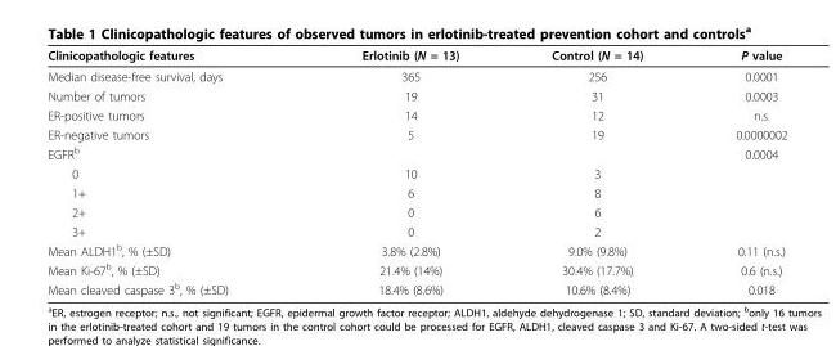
<table><thead><tr><td>Clinicopathologic features</td><td>Erlotinib (N = 13)</td><td>Control (N = 14)</td><td>P value</td></tr></thead><tbody><tr><td>Median disease-free survival, days</td><td>365</td><td>256</td><td>0.0001</td></tr><tr><td>Number of tumors</td><td>19</td><td>31</td><td>0.0003</td></tr><tr><td>ER-positive tumors</td><td>14</td><td>12</td><td>n.s.</td></tr><tr><td>ER-negative tumors</td><td>5</td><td>19</td><td>0.0000002</td></tr><tr><td>EGFR<sup>b</sup></td><td></td><td></td><td>0.0004</td></tr><tr><td>0</td><td>10</td><td>3</td><td></td></tr><tr><td>1+</td><td>6</td><td>8</td><td></td></tr><tr><td>2+</td><td>0</td><td>6</td><td></td></tr><tr><td>3+</td><td>0</td><td>2</td><td></td></tr><tr><td>Mean ALDH1<sup>b</sup>, % (±SD)</td><td>3.8% (2.8%)</td><td>9.0% (9.8%)</td><td>0.11 (n.s.)</td></tr><tr><td>Mean Ki-67<sup>b</sup>, % (±SD)</td><td>21.4% (14%)</td><td>30.4% (17.7%)</td><td>0.6 (n.s.)</td></tr><tr><td>Mean cleaved caspase 3<sup>b</sup>, % (±SD)</td><td>18.4% (8.6%)</td><td>10.6% (8.4%)</td><td>0.018</td></tr></tbody></table>